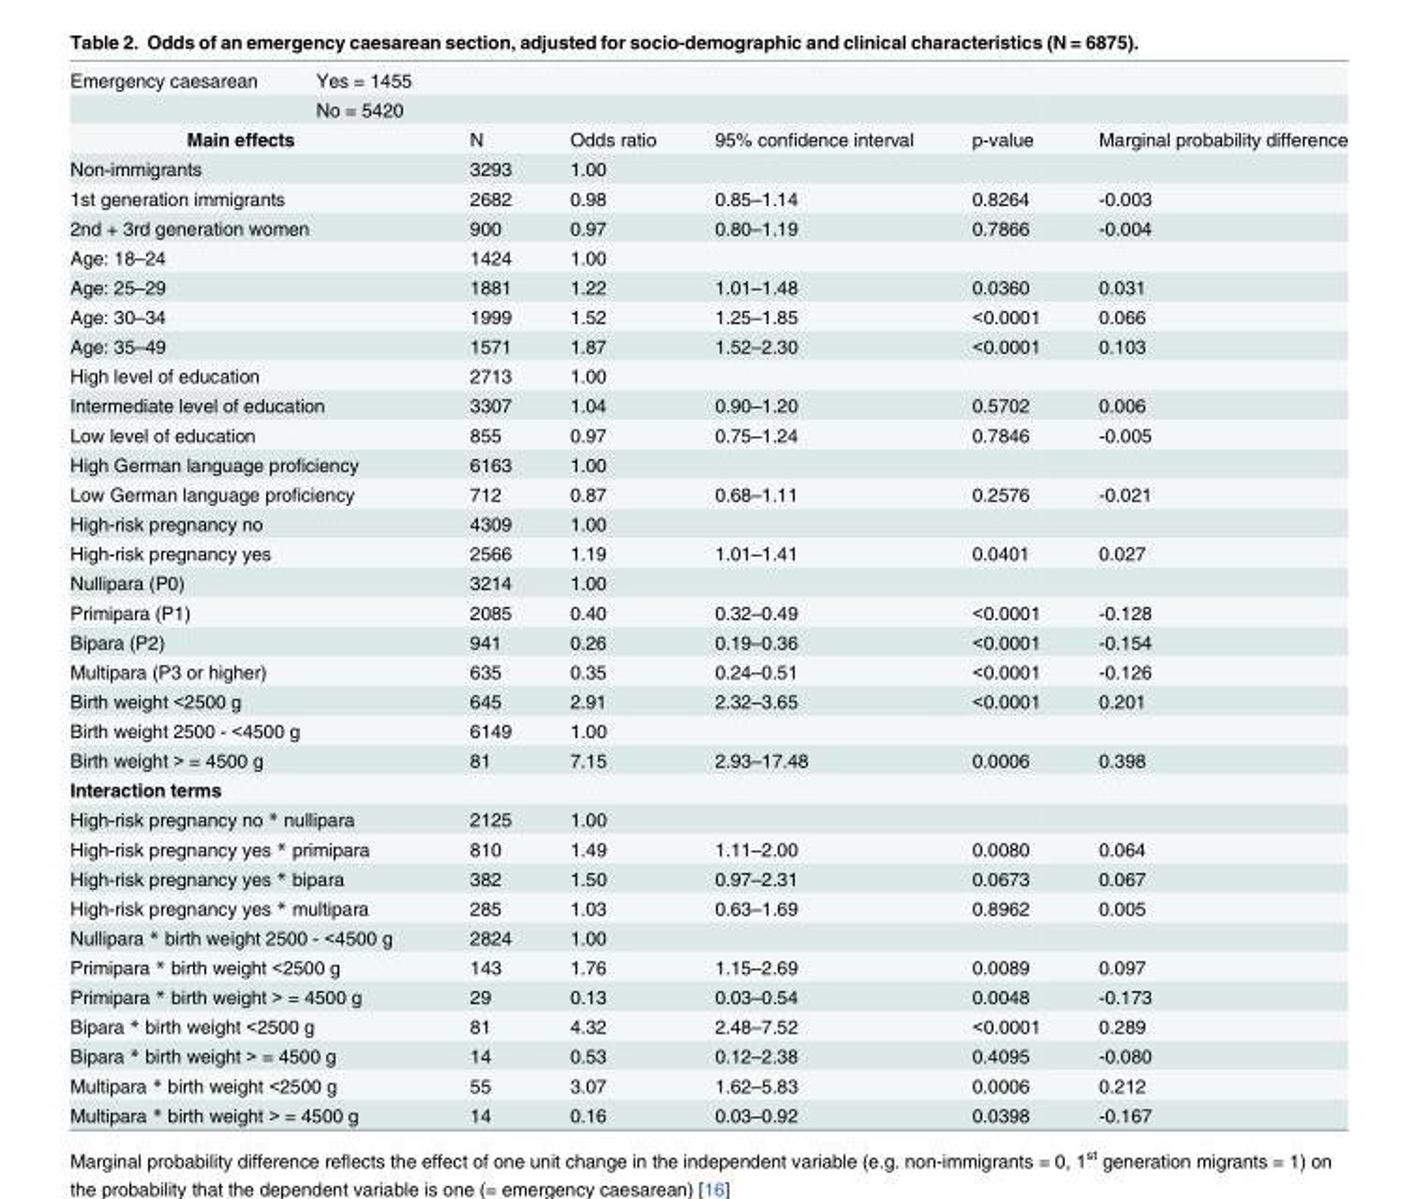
<table><tbody><tr><td rowspan="2">Emergency caesarean</td><td>Yes = 1455</td><td></td><td></td><td></td><td></td><td></td></tr><tr><td>No = 5420</td><td></td><td></td><td></td><td></td><td></td></tr><tr><td colspan="2">Main effects</td><td>N</td><td>Odds ratio</td><td>95% confidence interval</td><td>p-value</td><td>Marginal probability difference</td></tr><tr><td colspan="2">Non-immigrants</td><td>3293</td><td>1.00</td><td></td><td></td><td></td></tr><tr><td colspan="2">1st generation immigrants</td><td>2682</td><td>0.98</td><td>0.85–1.14</td><td>0.8264</td><td>-0.003</td></tr><tr><td colspan="2">2nd + 3rd generation women</td><td>900</td><td>0.97</td><td>0.80–1.19</td><td>0.7866</td><td>-0.004</td></tr><tr><td colspan="2">Age: 18–24</td><td>1424</td><td>1.00</td><td></td><td></td><td></td></tr><tr><td colspan="2">Age: 25–29</td><td>1881</td><td>1.22</td><td>1.01–1.48</td><td>0.0360</td><td>0.031</td></tr><tr><td colspan="2">Age: 30–34</td><td>1999</td><td>1.52</td><td>1.25–1.85</td><td>&lt;0.0001</td><td>0.066</td></tr><tr><td colspan="2">Age: 35–49</td><td>1571</td><td>1.87</td><td>1.52–2.30</td><td>&lt;0.0001</td><td>0.103</td></tr><tr><td colspan="2">High level of education</td><td>2713</td><td>1.00</td><td></td><td></td><td></td></tr><tr><td colspan="2">Intermediate level of education</td><td>3307</td><td>1.04</td><td>0.90–1.20</td><td>0.5702</td><td>0.006</td></tr><tr><td colspan="2">Low level of education</td><td>855</td><td>0.97</td><td>0.75–1.24</td><td>0.7846</td><td>-0.005</td></tr><tr><td colspan="2">High German language proficiency</td><td>6163</td><td>1.00</td><td></td><td></td><td></td></tr><tr><td colspan="2">Low German language proficiency</td><td>712</td><td>0.87</td><td>0.68–1.11</td><td>0.2576</td><td>-0.021</td></tr><tr><td colspan="2">High-risk pregnancy no</td><td>4309</td><td>1.00</td><td></td><td></td><td></td></tr><tr><td colspan="2">High-risk pregnancy yes</td><td>2566</td><td>1.19</td><td>1.01–1.41</td><td>0.0401</td><td>0.027</td></tr><tr><td colspan="2">Nullipara (P0)</td><td>3214</td><td>1.00</td><td></td><td></td><td></td></tr><tr><td colspan="2">Primipara (P1)</td><td>2085</td><td>0.40</td><td>0.32–0.49</td><td>&lt;0.0001</td><td>-0.128</td></tr><tr><td colspan="2">Bipara (P2)</td><td>941</td><td>0.26</td><td>0.19–0.36</td><td>&lt;0.0001</td><td>-0.154</td></tr><tr><td colspan="2">Multipara (P3 or higher)</td><td>635</td><td>0.35</td><td>0.24–0.51</td><td>&lt;0.0001</td><td>-0.126</td></tr><tr><td colspan="2">Birth weight &lt;2500 g</td><td>645</td><td>2.91</td><td>2.32–3.65</td><td>&lt;0.0001</td><td>0.201</td></tr><tr><td colspan="2">Birth weight 2500 - &lt;4500 g</td><td>6149</td><td>1.00</td><td></td><td></td><td></td></tr><tr><td colspan="2">Birth weight &gt; = 4500 g</td><td>81</td><td>7.15</td><td>2.93–17.48</td><td>0.0006</td><td>0.398</td></tr><tr><td colspan="7">Interaction terms</td></tr><tr><td colspan="2">High-risk pregnancy no * nullipara</td><td>2125</td><td>1.00</td><td></td><td></td><td></td></tr><tr><td colspan="2">High-risk pregnancy yes * primipara</td><td>810</td><td>1.49</td><td>1.11–2.00</td><td>0.0080</td><td>0.064</td></tr><tr><td colspan="2">High-risk pregnancy yes * bipara</td><td>382</td><td>1.50</td><td>0.97–2.31</td><td>0.0673</td><td>0.067</td></tr><tr><td colspan="2">High-risk pregnancy yes * multipara</td><td>285</td><td>1.03</td><td>0.63–1.69</td><td>0.8962</td><td>0.005</td></tr><tr><td colspan="2">Nullipara * birth weight 2500 - &lt;4500 g</td><td>2824</td><td>1.00</td><td></td><td></td><td></td></tr><tr><td colspan="2">Primipara * birth weight &lt;2500 g</td><td>143</td><td>1.76</td><td>1.15–2.69</td><td>0.0089</td><td>0.097</td></tr><tr><td colspan="2">Primipara * birth weight &gt; = 4500 g</td><td>29</td><td>0.13</td><td>0.03–0.54</td><td>0.0048</td><td>-0.173</td></tr><tr><td colspan="2">Bipara * birth weight &lt;2500 g</td><td>81</td><td>4.32</td><td>2.48–7.52</td><td>&lt;0.0001</td><td>0.289</td></tr><tr><td colspan="2">Bipara * birth weight &gt; = 4500 g</td><td>14</td><td>0.53</td><td>0.12–2.38</td><td>0.4095</td><td>-0.080</td></tr><tr><td colspan="2">Multipara * birth weight &lt;2500 g</td><td>55</td><td>3.07</td><td>1.62–5.83</td><td>0.0006</td><td>0.212</td></tr><tr><td colspan="2">Multipara * birth weight &gt; = 4500 g</td><td>14</td><td>0.16</td><td>0.03–0.92</td><td>0.0398</td><td>-0.167</td></tr></tbody></table>